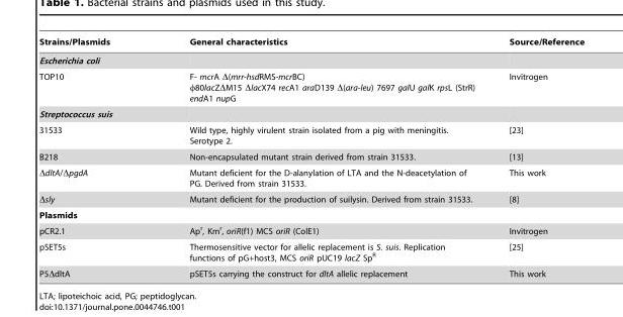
<table><thead><tr><td>Strains/Plasmids</td><td>General characteristics</td><td>Source/Reference</td></tr></thead><tbody><tr><td colspan="3">Escherichia coli</td></tr><tr><td>TOP10</td><td>F- mcrA Δ(mrr-hsdRMS-mcrBC) φ80lacZΔM15 ΔlacX74 recA1 araD139 Δ(ara-leu) 7697 galU galK rpsL (StrR) endA1 nupG</td><td>Invitrogen</td></tr><tr><td colspan="3">Streptococcus suis</td></tr><tr><td>31533</td><td>Wild type, highly virulent strain isolated from a pig with meningitis. Serotype 2.</td><td>[23]</td></tr><tr><td>B218</td><td>Non-encapsulated mutant strain derived from strain 31533.</td><td>[13]</td></tr><tr><td>ΔdltA/ΔpgdA</td><td>Mutant deficient for the D-alanylation of LTA and the N-deacetylation of PG. Derived from strain 31533.</td><td>This work</td></tr><tr><td>Δsly</td><td>Mutant deficient for the production of suilysin. Derived from strain 31533.</td><td>[8]</td></tr><tr><td colspan="3">Plasmids</td></tr><tr><td>pCR2.1</td><td>Ap<sup>r</sup>, Km<sup>r</sup>, oriR(f1) MCS oriR (ColE1)</td><td>Invitrogen</td></tr><tr><td>pSET5s</td><td>Thermosensitive vector for allelic replacement is S. suis. Replication functions of pG+host3, MCS oriR pUC19 lacZ Sp<sup>R</sup></td><td>[25]</td></tr><tr><td>P5ΔdltA</td><td>pSET5s carrying the construct for dltA allelic replacement</td><td>This work</td></tr></tbody></table>